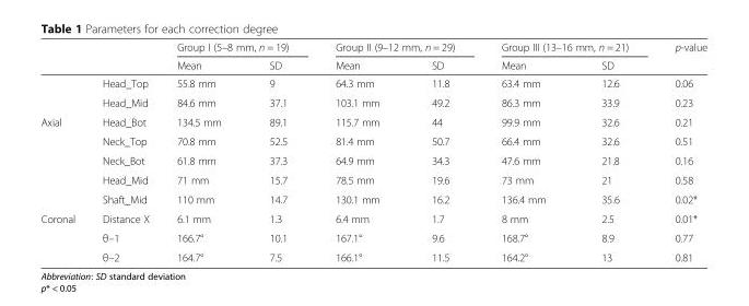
<table><thead><tr><td rowspan="2"></td><td rowspan="2"></td><td colspan="2">Group I (5–8 mm, n = 19)</td><td colspan="2">Group II (9–12 mm, n = 29)</td><td colspan="2">Group III (13–16 mm, n = 21)</td><td rowspan="2">p-value</td></tr><tr><td>Mean</td><td>SD</td><td>Mean</td><td>SD</td><td>Mean</td><td>SD</td></tr></thead><tbody><tr><td></td><td>Head_Top</td><td>55.8 mm</td><td>9</td><td>64.3 mm</td><td>11.8</td><td>63.4 mm</td><td>12.6</td><td>0.06</td></tr><tr><td></td><td>Head_Mid</td><td>84.6 mm</td><td>37.1</td><td>103.1 mm</td><td>49.2</td><td>86.3 mm</td><td>33.9</td><td>0.23</td></tr><tr><td rowspan="5">Axial</td><td>Head_Bot</td><td>134.5 mm</td><td>89.1</td><td>115.7 mm</td><td>44</td><td>99.9 mm</td><td>32.6</td><td>0.21</td></tr><tr><td>Neck_Top</td><td>70.8 mm</td><td>52.5</td><td>81.4 mm</td><td>50.7</td><td>66.4 mm</td><td>32.6</td><td>0.51</td></tr><tr><td>Neck_Bot</td><td>61.8 mm</td><td>37.3</td><td>64.9 mm</td><td>34.3</td><td>47.6 mm</td><td>21.8</td><td>0.16</td></tr><tr><td>Head_Mid</td><td>71 mm</td><td>15.7</td><td>78.5 mm</td><td>19.6</td><td>73 mm</td><td>21</td><td>0.58</td></tr><tr><td>Shaft_Mid</td><td>110 mm</td><td>14.7</td><td>130.1 mm</td><td>16.2</td><td>136.4 mm</td><td>35.6</td><td>0.02*</td></tr><tr><td rowspan="3">Coronal</td><td>Distance X</td><td>6.1 mm</td><td>1.3</td><td>6.4 mm</td><td>1.7</td><td>8 mm</td><td>2.5</td><td>0.01*</td></tr><tr><td>θ–1</td><td>166.7°</td><td>10.1</td><td>167.1°</td><td>9.6</td><td>168.7°</td><td>8.9</td><td>0.77</td></tr><tr><td>θ–2</td><td>164.7°</td><td>7.5</td><td>166.1°</td><td>11.5</td><td>164.2°</td><td>13</td><td>0.81</td></tr></tbody></table>